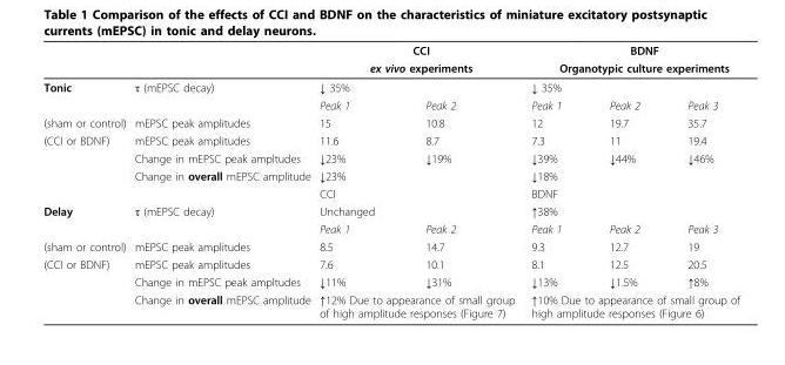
<table><thead><tr><td rowspan="4">Tonic</td><td rowspan="4">τ (mEPSC decay)</td><td rowspan="3" colspan="2">CCI ex vivo experiments ↓ 35%</td><td rowspan="3" colspan="3">BDNF Organotypic culture experiments ↓ 35%</td></tr><tr></tr><tr></tr><tr><td>Peak 1</td><td>Peak 2</td><td>Peak 1</td><td>Peak 2</td><td>Peak 3</td></tr></thead><tbody><tr><td>(sham or control)</td><td>mEPSC peak amplitudes</td><td>15</td><td>10.8</td><td>12</td><td>19.7</td><td>35.7</td></tr><tr><td rowspan="4">(CCI or BDNF)</td><td>mEPSC peak amplitudes</td><td>11.6</td><td>8.7</td><td>7.3</td><td>11</td><td>19.4</td></tr><tr><td>Change in mEPSC peak ampltudes</td><td>↓23%</td><td>↓19%</td><td>↓39%</td><td>↓44%</td><td>↓46%</td></tr><tr><td>Change in overall mEPSC amplitude</td><td colspan="2">↓23%</td><td colspan="3">↓18%</td></tr><tr><td></td><td colspan="2">CCI</td><td colspan="3">BDNF</td></tr><tr><td rowspan="2">Delay</td><td>τ (mEPSC decay)</td><td colspan="2">Unchanged</td><td colspan="3">↑38%</td></tr><tr><td></td><td>Peak 1</td><td>Peak 2</td><td>Peak 1</td><td>Peak 2</td><td>Peak 3</td></tr><tr><td>(sham or control)</td><td>mEPSC peak amplitudes</td><td>8.5</td><td>14.7</td><td>9.3</td><td>12.7</td><td>19</td></tr><tr><td rowspan="3">(CCI or BDNF)</td><td>mEPSC peak amplitudes</td><td>7.6</td><td>10.1</td><td>8.1</td><td>12.5</td><td>20.5</td></tr><tr><td>Change in mEPSC peak ampltudes</td><td>↓11%</td><td>↓31%</td><td>↓13%</td><td>↓1.5%</td><td>↑8%</td></tr><tr><td>Change in overall mEPSC amplitude</td><td colspan="2">↑12% Due to appearance of small group of high amplitude responses (Figure 7)</td><td colspan="3">↑10% Due to appearance of small group of high amplitude responses (Figure 6)</td></tr></tbody></table>